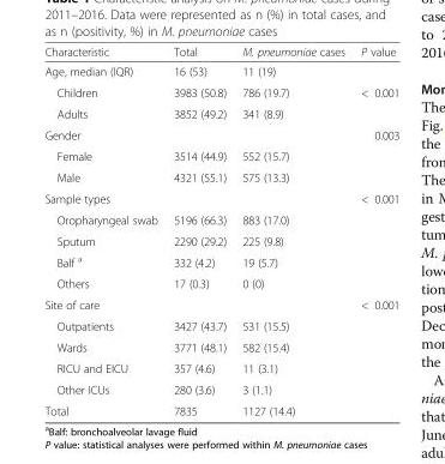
<table><thead><tr><td>Characteristic</td><td>Total</td><td>M. pneumoniae cases</td><td>P value</td></tr></thead><tbody><tr><td>Age, median (IQR)</td><td>16 (53)</td><td>11 (19)</td><td></td></tr><tr><td>Children</td><td>3983 (50.8)</td><td>786 (19.7)</td><td rowspan="2">&lt; 0.001</td></tr><tr><td>Adults</td><td>3852 (49.2)</td><td>341 (8.9)</td></tr><tr><td>Gender</td><td></td><td></td><td>0.003</td></tr><tr><td>Female</td><td>3514 (44.9)</td><td>552 (15.7)</td><td></td></tr><tr><td>Male</td><td>4321 (55.1)</td><td>575 (13.3)</td><td></td></tr><tr><td>Sample types</td><td></td><td></td><td>&lt; 0.001</td></tr><tr><td>Oropharyngeal swab</td><td>5196 (66.3)</td><td>883 (17.0)</td><td></td></tr><tr><td>Sputum</td><td>2290 (29.2)</td><td>225 (9.8)</td><td></td></tr><tr><td>Balf <sup>a</sup></td><td>332 (4.2)</td><td>19 (5.7)</td><td></td></tr><tr><td>Others</td><td>17 (0.3)</td><td>0 (0)</td><td></td></tr><tr><td>Site of care</td><td></td><td></td><td>&lt; 0.001</td></tr><tr><td>Outpatients</td><td>3427 (43.7)</td><td>531 (15.5)</td><td></td></tr><tr><td>Wards</td><td>3771 (48.1)</td><td>582 (15.4)</td><td></td></tr><tr><td>RICU and EICU</td><td>357 (4.6)</td><td>11 (3.1)</td><td></td></tr><tr><td>Other ICUs</td><td>280 (3.6)</td><td>3 (1.1)</td><td></td></tr><tr><td>Total</td><td>7835</td><td>1127 (14.4)</td><td></td></tr></tbody></table>